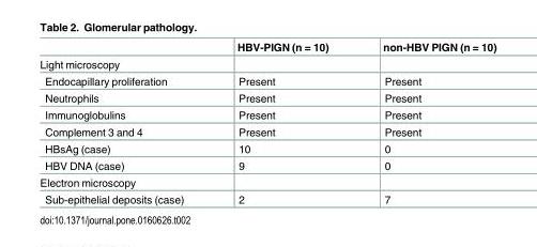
<table><thead><tr><td></td><td>HBV-PIGN (n = 10)</td><td>non-HBV PIGN (n = 10)</td></tr></thead><tbody><tr><td colspan="3">Light microscopy</td></tr><tr><td>Endocapillary proliferation</td><td>Present</td><td>Present</td></tr><tr><td>Neutrophils</td><td>Present</td><td>Present</td></tr><tr><td>Immunoglobulins</td><td>Present</td><td>Present</td></tr><tr><td>Complement 3 and 4</td><td>Present</td><td>Present</td></tr><tr><td>HBsAg (case)</td><td>10</td><td>0</td></tr><tr><td>HBV DNA (case)</td><td>9</td><td>0</td></tr><tr><td colspan="3">Electron microscopy</td></tr><tr><td>Sub-epithelial deposits (case)</td><td>2</td><td>7</td></tr></tbody></table>